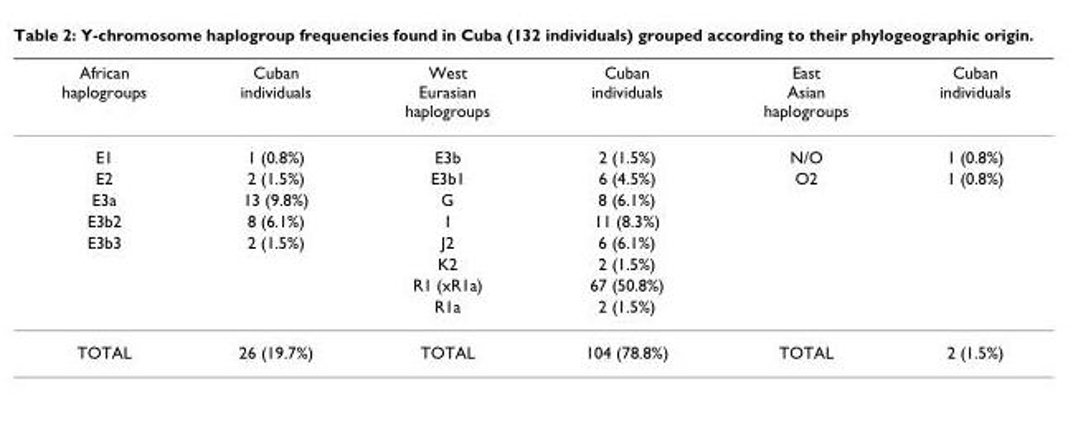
<table><thead><tr><td>African haplogroups</td><td>Cuban individuals</td><td>West Eurasian haplogroups</td><td>Cuban individuals</td><td>East Asian haplogroups</td><td>Cuban individuals</td></tr></thead><tbody><tr><td>E1</td><td>1 (0.8%)</td><td>E3b</td><td>2 (1.5%)</td><td>N/O</td><td>1 (0.8%)</td></tr><tr><td>E2</td><td>2 (1.5%)</td><td>E3b1</td><td>6 (4.5%)</td><td>O2</td><td>1 (0.8%)</td></tr><tr><td>E3a</td><td>13 (9.8%)</td><td>G</td><td>8 (6.1%)</td><td></td><td></td></tr><tr><td>E3b2</td><td>8 (6.1%)</td><td>I</td><td>11 (8.3%)</td><td></td><td></td></tr><tr><td rowspan="4">E3b3</td><td>2 (1.5%)</td><td>J2</td><td>6 (6.1%)</td><td></td><td></td></tr><tr><td></td><td>K2</td><td>2 (1.5%)</td><td></td><td></td></tr><tr><td></td><td>R1 (xR1a)</td><td>67 (50.8%)</td><td></td><td></td></tr><tr><td></td><td>R1a</td><td>2 (1.5%)</td><td></td><td></td></tr><tr><td>TOTAL</td><td>26 (19.7%)</td><td>TOTAL</td><td>104 (78.8%)</td><td>TOTAL</td><td>2 (1.5%)</td></tr></tbody></table>